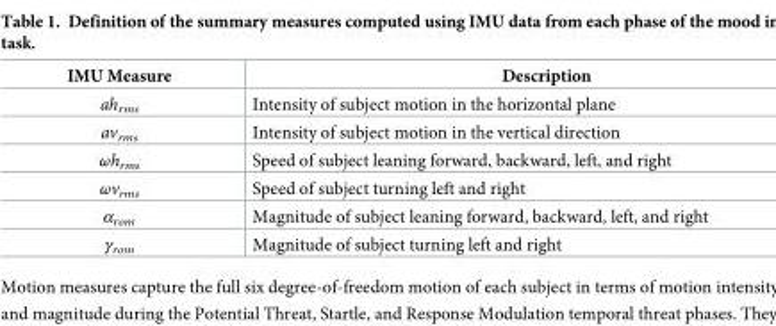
<table><thead><tr><td>IMU Measure</td><td>Description</td></tr></thead><tbody><tr><td>ah<sub>rms</sub></td><td>Intensity of subject motion in the horizontal plane</td></tr><tr><td>av<sub>rms</sub></td><td>Intensity of subject motion in the vertical direction</td></tr><tr><td>ωh<sub>rms</sub></td><td>Speed of subject leaning forward, backward, left, and right</td></tr><tr><td>ωv<sub>rms</sub></td><td>Speed of subject turning left and right</td></tr><tr><td>α<sub>rom</sub></td><td>Magnitude of subject leaning forward, backward, left, and right</td></tr><tr><td>γ<sub>rom</sub></td><td>Magnitude of subject turning left and right</td></tr></tbody></table>